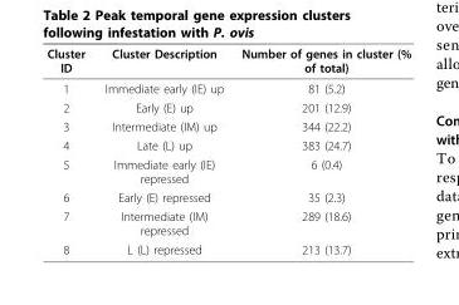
<table><thead><tr><td>Cluster ID</td><td>Cluster Description</td><td>Number of genes in cluster (% of total)</td></tr></thead><tbody><tr><td>1</td><td>Immediate early (IE) up</td><td>81 (5.2)</td></tr><tr><td>2</td><td>Early (E) up</td><td>201 (12.9)</td></tr><tr><td>3</td><td>Intermediate (IM) up</td><td>344 (22.2)</td></tr><tr><td>4</td><td>Late (L) up</td><td>383 (24.7)</td></tr><tr><td>5</td><td>Immediate early (IE) repressed</td><td>6 (0.4)</td></tr><tr><td>6</td><td>Early (E) repressed</td><td>35 (2.3)</td></tr><tr><td>7</td><td>Intermediate (IM) repressed</td><td>289 (18.6)</td></tr><tr><td>8</td><td>L (L) repressed</td><td>213 (13.7)</td></tr></tbody></table>